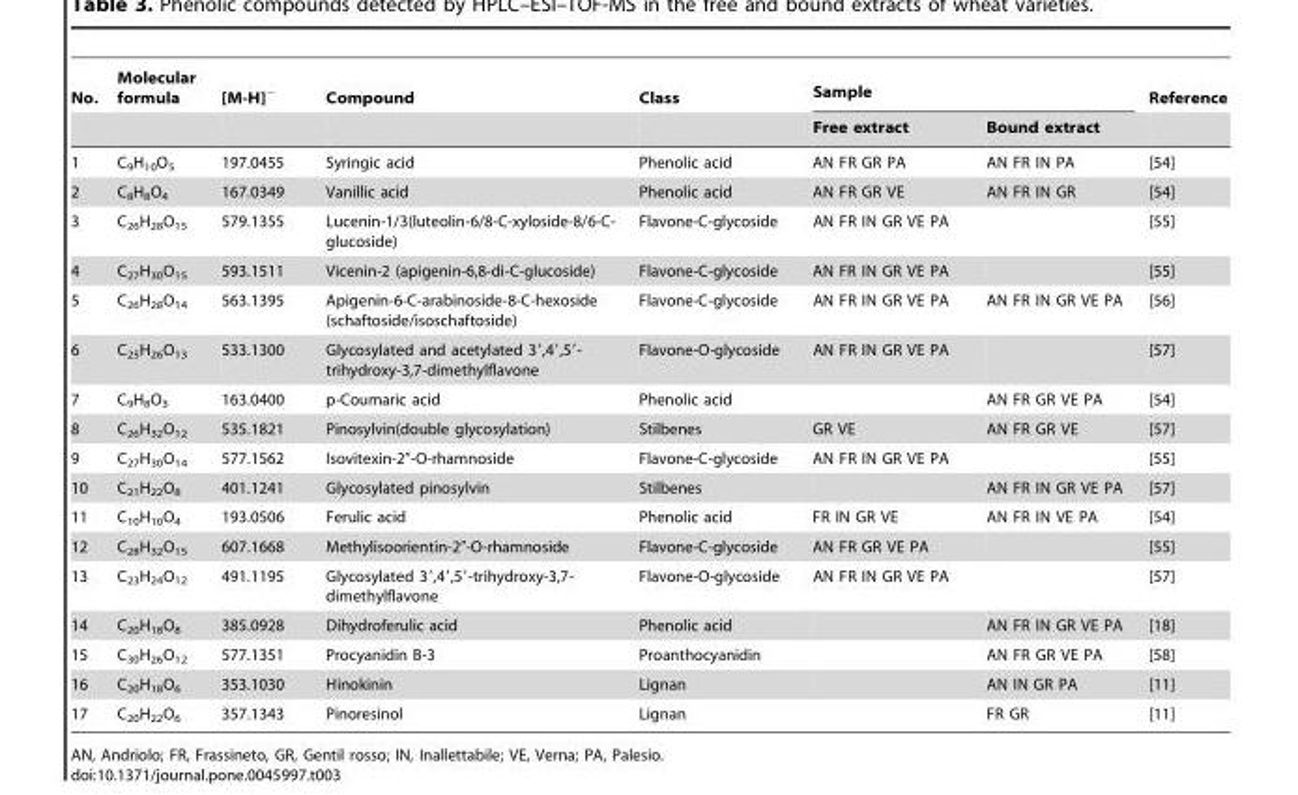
<table><thead><tr><td rowspan="2">No.</td><td rowspan="2">Molecular formula</td><td rowspan="2">[M-H]<sup>−</sup></td><td rowspan="2">Compound</td><td rowspan="2">Class</td><td colspan="2">Sample</td><td rowspan="2">Reference</td></tr><tr><td>Free extract</td><td>Bound extract</td></tr></thead><tbody><tr><td>1</td><td>C<sub>9</sub>H<sub>10</sub>O<sub>5</sub></td><td>197.0455</td><td>Syringic acid</td><td>Phenolic acid</td><td>AN FR GR PA</td><td>AN FR IN PA</td><td>[54]</td></tr><tr><td>2</td><td>C<sub>8</sub>H<sub>8</sub>O<sub>4</sub></td><td>167.0349</td><td>Vanillic acid</td><td>Phenolic acid</td><td>AN FR GR VE</td><td>AN FR IN GR</td><td>[54]</td></tr><tr><td>3</td><td>C<sub>26</sub>H<sub>28</sub>O<sub>15</sub></td><td>579.1355</td><td>Lucenin-1/3(luteolin-6/8-C-xyloside-8/6-C- glucoside)</td><td>Flavone-C-glycoside</td><td>AN FR IN GR VE PA</td><td></td><td>[55]</td></tr><tr><td>4</td><td>C<sub>27</sub>H<sub>30</sub>O<sub>15</sub></td><td>593.1511</td><td>Vicenin-2 (apigenin-6,8-di-C-glucoside)</td><td>Flavone-C-glycoside</td><td>AN FR IN GR VE PA</td><td></td><td>[55]</td></tr><tr><td>5</td><td>C<sub>26</sub>H<sub>28</sub>O<sub>14</sub></td><td>563.1395</td><td>Apigenin-6-C-arabinoside-8-C-hexoside (schaftoside/isoschaftoside)</td><td>Flavone-C-glycoside</td><td>AN FR IN GR VE PA</td><td>AN FR IN GR VE PA</td><td>[56]</td></tr><tr><td>6</td><td>C<sub>25</sub>H<sub>26</sub>O<sub>13</sub></td><td>533.1300</td><td>Glycosylated and acetylated 3′,4′,5′- trihydroxy-3,7-dimethylflavone</td><td>Flavone-O-glycoside</td><td>AN FR IN GR VE PA</td><td></td><td>[57]</td></tr><tr><td>7</td><td>C<sub>9</sub>H<sub>8</sub>O<sub>3</sub></td><td>163.0400</td><td>p-Coumaric acid</td><td>Phenolic acid</td><td></td><td>AN FR GR VE PA</td><td>[54]</td></tr><tr><td>8</td><td>C<sub>26</sub>H<sub>32</sub>O<sub>12</sub></td><td>535.1821</td><td>Pinosylvin(double glycosylation)</td><td>Stilbenes</td><td>GR VE</td><td>AN FR GR VE</td><td>[57]</td></tr><tr><td>9</td><td>C<sub>27</sub>H<sub>30</sub>O<sub>14</sub></td><td>577.1562</td><td>Isovitexin-2″-O-rhamnoside</td><td>Flavone-C-glycoside</td><td>AN FR IN GR VE PA</td><td></td><td>[55]</td></tr><tr><td>10</td><td>C<sub>21</sub>H<sub>22</sub>O<sub>8</sub></td><td>401.1241</td><td>Glycosylated pinosylvin</td><td>Stilbenes</td><td></td><td>AN FR IN GR VE PA</td><td>[57]</td></tr><tr><td>11</td><td>C<sub>10</sub>H<sub>10</sub>O<sub>4</sub></td><td>193.0506</td><td>Ferulic acid</td><td>Phenolic acid</td><td>FR IN GR VE</td><td>AN FR IN VE PA</td><td>[54]</td></tr><tr><td>12</td><td>C<sub>28</sub>H<sub>32</sub>O<sub>15</sub></td><td>607.1668</td><td>Methylisoorientin-2″-O-rhamnoside</td><td>Flavone-C-glycoside</td><td>AN FR GR VE PA</td><td></td><td>[55]</td></tr><tr><td>13</td><td>C<sub>23</sub>H<sub>24</sub>O<sub>12</sub></td><td>491.1195</td><td>Glycosylated 3′,4′,5′-trihydroxy-3,7- dimethylflavone</td><td>Flavone-O-glycoside</td><td>AN FR IN GR VE PA</td><td></td><td>[57]</td></tr><tr><td>14</td><td>C<sub>20</sub>H<sub>18</sub>O<sub>8</sub></td><td>385.0928</td><td>Dihydroferulic acid</td><td>Phenolic acid</td><td></td><td>AN FR IN GR VE PA</td><td>[18]</td></tr><tr><td>15</td><td>C<sub>30</sub>H<sub>26</sub>O<sub>12</sub></td><td>577.1351</td><td>Procyanidin B-3</td><td>Proanthocyanidin</td><td></td><td>AN FR GR VE PA</td><td>[58]</td></tr><tr><td>16</td><td>C<sub>20</sub>H<sub>18</sub>O<sub>6</sub></td><td>353.1030</td><td>Hinokinin</td><td>Lignan</td><td></td><td>AN IN GR PA</td><td>[11]</td></tr><tr><td>17</td><td>C<sub>20</sub>H<sub>22</sub>O<sub>6</sub></td><td>357.1343</td><td>Pinoresinol</td><td>Lignan</td><td></td><td>FR GR</td><td>[11]</td></tr></tbody></table>